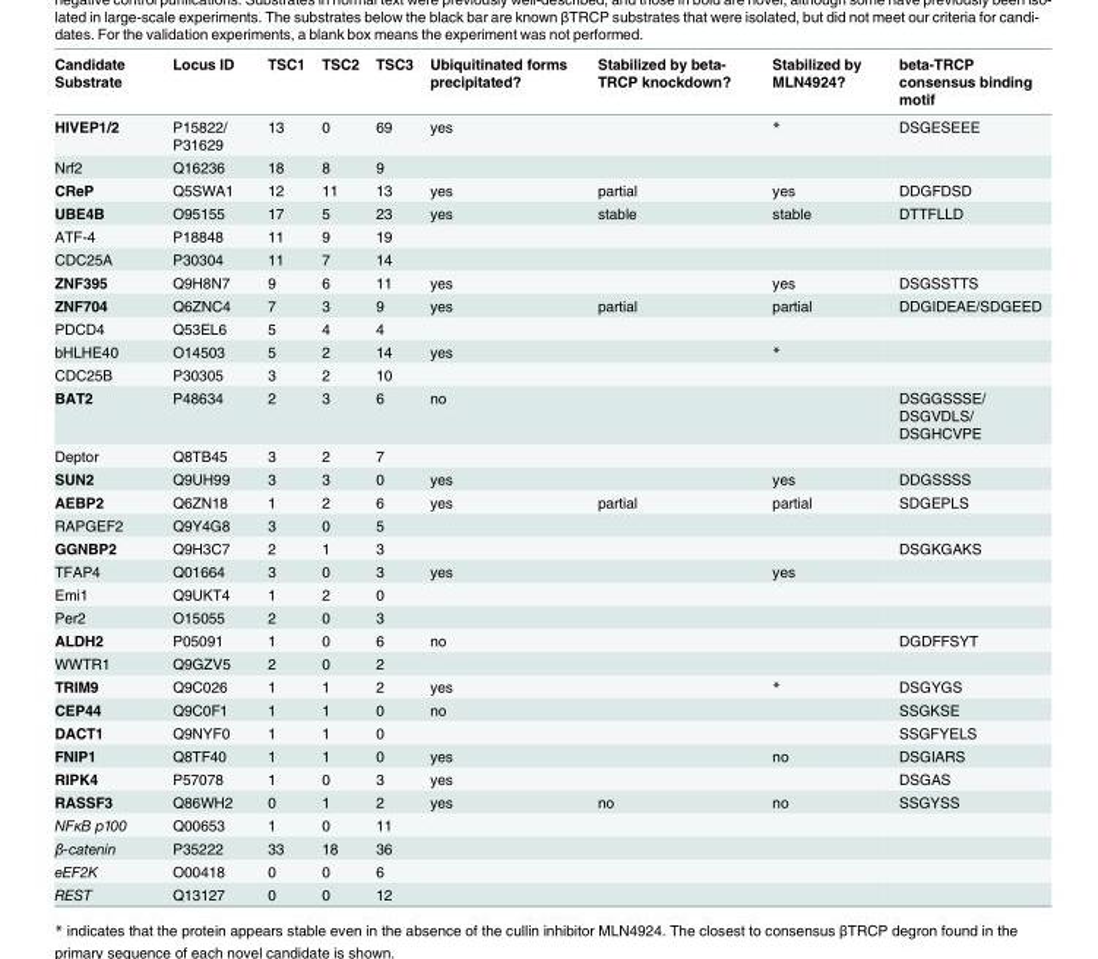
<table><thead><tr><td>Candidate Substrate</td><td>Locus ID</td><td>TSC1</td><td>TSC2</td><td>TSC3</td><td>Ubiquitinated forms precipitated?</td><td>Stabilized by beta- TRCP knockdown?</td><td>Stabilized by MLN4924?</td><td>beta-TRCP consensus binding motif</td></tr></thead><tbody><tr><td>HIVEP1/2</td><td>P15822/ P31629</td><td>13</td><td>0</td><td>69</td><td>yes</td><td></td><td>*</td><td>DSGESEEE</td></tr><tr><td>Nrf2</td><td>Q16236</td><td>18</td><td>8</td><td>9</td><td></td><td></td><td></td><td></td></tr><tr><td>CReP</td><td>Q5SWA1</td><td>12</td><td>11</td><td>13</td><td>yes</td><td>partial</td><td>yes</td><td>DDGFDSD</td></tr><tr><td>UBE4B</td><td>O95155</td><td>17</td><td>5</td><td>23</td><td>yes</td><td>stable</td><td>stable</td><td>DTTFLLD</td></tr><tr><td>ATF-4</td><td>P18848</td><td>11</td><td>9</td><td>19</td><td></td><td></td><td></td><td></td></tr><tr><td>CDC25A</td><td>P30304</td><td>11</td><td>7</td><td>14</td><td></td><td></td><td></td><td></td></tr><tr><td>ZNF395</td><td>Q9H8N7</td><td>9</td><td>6</td><td>11</td><td>yes</td><td></td><td>yes</td><td>DSGSSTTS</td></tr><tr><td>ZNF704</td><td>Q6ZNC4</td><td>7</td><td>3</td><td>9</td><td>yes</td><td>partial</td><td>partial</td><td>DDGIDEAE/SDGEED</td></tr><tr><td>PDCD4</td><td>Q53EL6</td><td>5</td><td>4</td><td>4</td><td></td><td></td><td></td><td></td></tr><tr><td>bHLHE40</td><td>O14503</td><td>5</td><td>2</td><td>14</td><td>yes</td><td></td><td>*</td><td></td></tr><tr><td>CDC25B</td><td>P30305</td><td>3</td><td>2</td><td>10</td><td></td><td></td><td></td><td></td></tr><tr><td>BAT2</td><td>P48634</td><td>2</td><td>3</td><td>6</td><td>no</td><td></td><td></td><td>DSGGSSSE/ DSGVDLS/ DSGHCVPE</td></tr><tr><td>Deptor</td><td>Q8TB45</td><td>3</td><td>2</td><td>7</td><td></td><td></td><td></td><td></td></tr><tr><td>SUN2</td><td>Q9UH99</td><td>3</td><td>3</td><td>0</td><td>yes</td><td></td><td>yes</td><td>DDGSSSS</td></tr><tr><td>AEBP2</td><td>Q6ZN18</td><td>1</td><td>2</td><td>6</td><td>yes</td><td>partial</td><td>partial</td><td>SDGEPLS</td></tr><tr><td>RAPGEF2</td><td>Q9Y4G8</td><td>3</td><td>0</td><td>5</td><td></td><td></td><td></td><td></td></tr><tr><td>GGNBP2</td><td>Q9H3C7</td><td>2</td><td>1</td><td>3</td><td></td><td></td><td></td><td>DSGKGAKS</td></tr><tr><td>TFAP4</td><td>Q01664</td><td>3</td><td>0</td><td>3</td><td>yes</td><td></td><td>yes</td><td></td></tr><tr><td>Emi1</td><td>Q9UKT4</td><td>1</td><td>2</td><td>0</td><td></td><td></td><td></td><td></td></tr><tr><td>Per2</td><td>O15055</td><td>2</td><td>0</td><td>3</td><td></td><td></td><td></td><td></td></tr><tr><td>ALDH2</td><td>P05091</td><td>1</td><td>0</td><td>6</td><td>no</td><td></td><td></td><td>DGDFFSYT</td></tr><tr><td>WWTR1</td><td>Q9GZV5</td><td>2</td><td>0</td><td>2</td><td></td><td></td><td></td><td></td></tr><tr><td>TRIM9</td><td>Q9C026</td><td>1</td><td>1</td><td>2</td><td>yes</td><td></td><td>*</td><td>DSGYGS</td></tr><tr><td>CEP44</td><td>Q9C0F1</td><td>1</td><td>1</td><td>0</td><td>no</td><td></td><td></td><td>SSGKSE</td></tr><tr><td>DACT1</td><td>Q9NYF0</td><td>1</td><td>1</td><td>0</td><td></td><td></td><td></td><td>SSGFYELS</td></tr><tr><td>FNIP1</td><td>Q8TF40</td><td>1</td><td>1</td><td>0</td><td>yes</td><td></td><td>no</td><td>DSGIARS</td></tr><tr><td>RIPK4</td><td>P57078</td><td>1</td><td>0</td><td>3</td><td>yes</td><td></td><td></td><td>DSGAS</td></tr><tr><td>RASSF3</td><td>Q86WH2</td><td>0</td><td>1</td><td>2</td><td>yes</td><td>no</td><td>no</td><td>SSGYSS</td></tr><tr><td>NFκB p100</td><td>Q00653</td><td>1</td><td>0</td><td>11</td><td></td><td></td><td></td><td></td></tr><tr><td>β-catenin</td><td>P35222</td><td>33</td><td>18</td><td>36</td><td></td><td></td><td></td><td></td></tr><tr><td>eEF2K</td><td>O00418</td><td>0</td><td>0</td><td>6</td><td></td><td></td><td></td><td></td></tr><tr><td>REST</td><td>Q13127</td><td>0</td><td>0</td><td>12</td><td></td><td></td><td></td><td></td></tr></tbody></table>